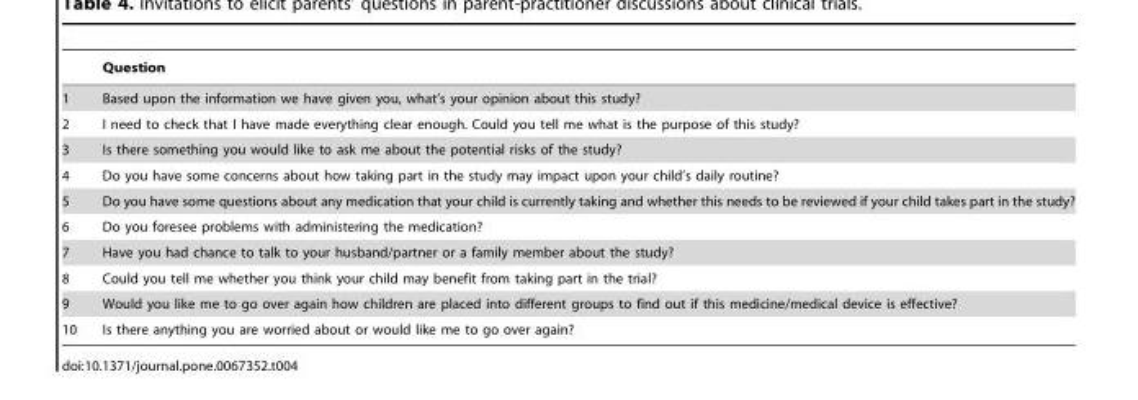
<table><thead><tr><td></td><td>Question</td></tr></thead><tbody><tr><td>1</td><td>Based upon the information we have given you, what’s your opinion about this study?</td></tr><tr><td>2</td><td>I need to check that I have made everything clear enough. Could you tell me what is the purpose of this study?</td></tr><tr><td>3</td><td>Is there something you would like to ask me about the potential risks of the study?</td></tr><tr><td>4</td><td>Do you have some concerns about how taking part in the study may impact upon your child’s daily routine?</td></tr><tr><td>5</td><td>Do you have some questions about any medication that your child is currently taking and whether this needs to be reviewed if your child takes part in the study?</td></tr><tr><td>6</td><td>Do you foresee problems with administering the medication?</td></tr><tr><td>7</td><td>Have you had chance to talk to your husband/partner or a family member about the study?</td></tr><tr><td>8</td><td>Could you tell me whether you think your child may benefit from taking part in the trial?</td></tr><tr><td>9</td><td>Would you like me to go over again how children are placed into different groups to find out if this medicine/medical device is effective?</td></tr><tr><td>10</td><td>Is there anything you are worried about or would like me to go over again?</td></tr></tbody></table>